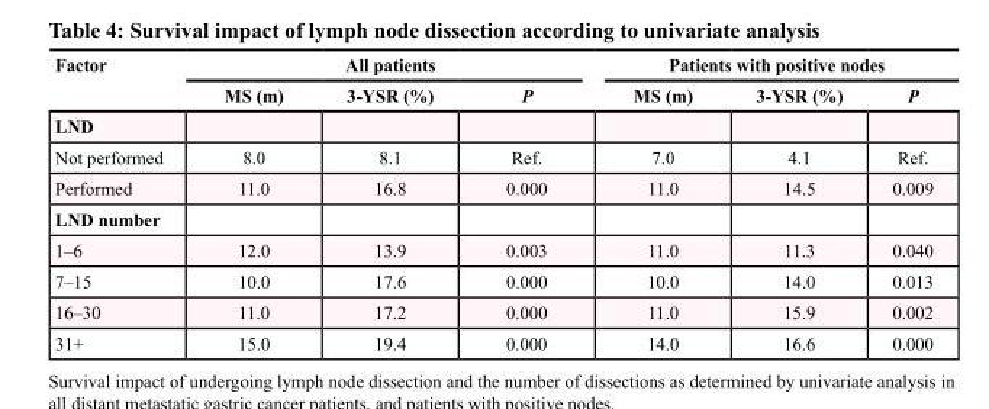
<table><thead><tr><td rowspan="2">Factor</td><td colspan="3">All patients</td><td colspan="3">Patients with positive nodes</td></tr><tr><td>MS (m)</td><td>3-YSR (%)</td><td>P</td><td>MS (m)</td><td>3-YSR (%)</td><td>P</td></tr></thead><tbody><tr><td colspan="7">LND</td></tr><tr><td>Not performed</td><td>8.0</td><td>8.1</td><td>Ref.</td><td>7.0</td><td>4.1</td><td>Ref.</td></tr><tr><td>Performed</td><td>11.0</td><td>16.8</td><td>0.000</td><td>11.0</td><td>14.5</td><td>0.009</td></tr><tr><td colspan="7">LND number</td></tr><tr><td>1–6</td><td>12.0</td><td>13.9</td><td>0.003</td><td>11.0</td><td>11.3</td><td>0.040</td></tr><tr><td>7–15</td><td>10.0</td><td>17.6</td><td>0.000</td><td>10.0</td><td>14.0</td><td>0.013</td></tr><tr><td>16–30</td><td>11.0</td><td>17.2</td><td>0.000</td><td>11.0</td><td>15.9</td><td>0.002</td></tr><tr><td>31+</td><td>15.0</td><td>19.4</td><td>0.000</td><td>14.0</td><td>16.6</td><td>0.000</td></tr></tbody></table>